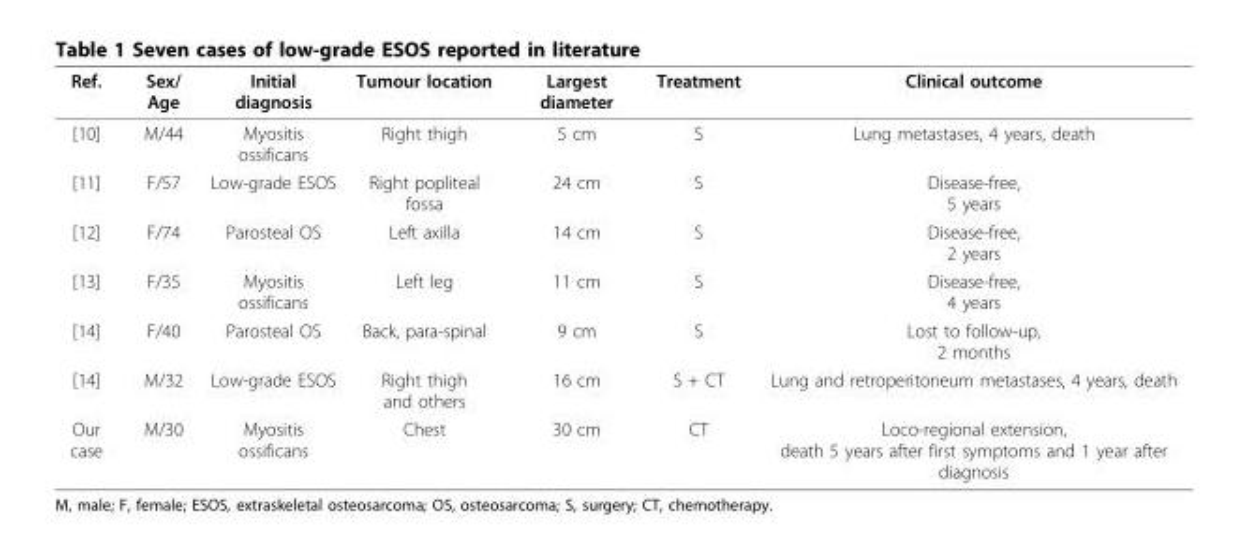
<table><thead><tr><td>Ref.</td><td>Sex/ Age</td><td>Initial diagnosis</td><td>Tumour location</td><td>Largest diameter</td><td>Treatment</td><td>Clinical outcome</td></tr></thead><tbody><tr><td>[10]</td><td>M/44</td><td>Myositis ossificans</td><td>Right thigh</td><td>5 cm</td><td>S</td><td>Lung metastases, 4 years, death</td></tr><tr><td>[11]</td><td>F/57</td><td>Low-grade ESOS</td><td>Right popliteal fossa</td><td>24 cm</td><td>S</td><td>Disease-free, 5 years</td></tr><tr><td>[12]</td><td>F/74</td><td>Parosteal OS</td><td>Left axilla</td><td>14 cm</td><td>S</td><td>Disease-free, 2 years</td></tr><tr><td>[13]</td><td>F/35</td><td>Myositis ossificans</td><td>Left leg</td><td>11 cm</td><td>S</td><td>Disease-free, 4 years</td></tr><tr><td>[14]</td><td>F/40</td><td>Parosteal OS</td><td>Back, para-spinal</td><td>9 cm</td><td>S</td><td>Lost to follow-up, 2 months</td></tr><tr><td>[14]</td><td>M/32</td><td>Low-grade ESOS</td><td>Right thigh and others</td><td>16 cm</td><td>S + CT</td><td>Lung and retroperitoneum metastases, 4 years, death</td></tr><tr><td>Our case</td><td>M/30</td><td>Myositis ossificans</td><td>Chest</td><td>30 cm</td><td>CT</td><td>Loco-regional extension, death 5 years after first symptoms and 1 year after diagnosis</td></tr></tbody></table>